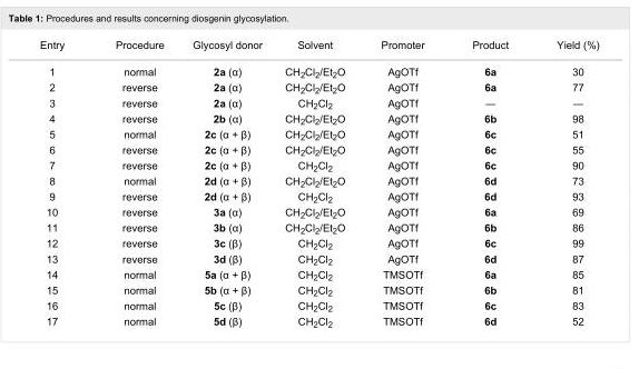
<table><tbody><tr><td>Entry</td><td>Procedure</td><td>Glycosyl donor</td><td>Solvent</td><td>Promoter</td><td>Product</td><td>Yield (%)</td></tr><tr><td>1</td><td>normal</td><td>2a (α)</td><td>CH<sub>2</sub>Cl<sub>2</sub>/Et<sub>2</sub>O</td><td>AgOTf</td><td>6a</td><td>30</td></tr><tr><td>2</td><td>reverse</td><td>2a (α)</td><td>CH<sub>2</sub>Cl<sub>2</sub>/Et<sub>2</sub>O</td><td>AgOTf</td><td>6a</td><td>77</td></tr><tr><td>3</td><td>reverse</td><td>2a (α)</td><td>CH<sub>2</sub>Cl<sub>2</sub></td><td>AgOTf</td><td>―</td><td>―</td></tr><tr><td>4</td><td>reverse</td><td>2b (α)</td><td>CH<sub>2</sub>Cl<sub>2</sub>/Et<sub>2</sub>O</td><td>AgOTf</td><td>6b</td><td>98</td></tr><tr><td>5</td><td>normal</td><td>2c (α + β)</td><td>CH<sub>2</sub>Cl<sub>2</sub>/Et<sub>2</sub>O</td><td>AgOTf</td><td>6c</td><td>51</td></tr><tr><td>6</td><td>reverse</td><td>2c (α + β)</td><td>CH<sub>2</sub>Cl<sub>2</sub>/Et<sub>2</sub>O</td><td>AgOTf</td><td>6c</td><td>55</td></tr><tr><td>7</td><td>reverse</td><td>2c (α + β)</td><td>CH<sub>2</sub>Cl<sub>2</sub></td><td>AgOTf</td><td>6c</td><td>90</td></tr><tr><td>8</td><td>normal</td><td>2d (α + β)</td><td>CH<sub>2</sub>Cl<sub>2</sub>/Et<sub>2</sub>O</td><td>AgOTf</td><td>6d</td><td>73</td></tr><tr><td>9</td><td>reverse</td><td>2d (α + β)</td><td>CH<sub>2</sub>Cl<sub>2</sub></td><td>AgOTf</td><td>6d</td><td>93</td></tr><tr><td>10</td><td>reverse</td><td>3a (α)</td><td>CH<sub>2</sub>Cl<sub>2</sub>/Et<sub>2</sub>O</td><td>AgOTf</td><td>6a</td><td>69</td></tr><tr><td>11</td><td>reverse</td><td>3b (α)</td><td>CH<sub>2</sub>Cl<sub>2</sub>/Et<sub>2</sub>O</td><td>AgOTf</td><td>6b</td><td>86</td></tr><tr><td>12</td><td>reverse</td><td>3c (β)</td><td>CH<sub>2</sub>Cl<sub>2</sub></td><td>AgOTf</td><td>6c</td><td>99</td></tr><tr><td>13</td><td>reverse</td><td>3d (β)</td><td>CH<sub>2</sub>Cl<sub>2</sub></td><td>AgOTf</td><td>6d</td><td>87</td></tr><tr><td>14</td><td>normal</td><td>5a (α + β)</td><td>CH<sub>2</sub>Cl<sub>2</sub></td><td>TMSOTf</td><td>6a</td><td>85</td></tr><tr><td>15</td><td>normal</td><td>5b (α + β)</td><td>CH<sub>2</sub>Cl<sub>2</sub></td><td>TMSOTf</td><td>6b</td><td>81</td></tr><tr><td>16</td><td>normal</td><td>5c (β)</td><td>CH<sub>2</sub>Cl<sub>2</sub></td><td>TMSOTf</td><td>6c</td><td>83</td></tr><tr><td>17</td><td>normal</td><td>5d (β)</td><td>CH<sub>2</sub>Cl<sub>2</sub></td><td>TMSOTf</td><td>6d</td><td>52</td></tr></tbody></table>